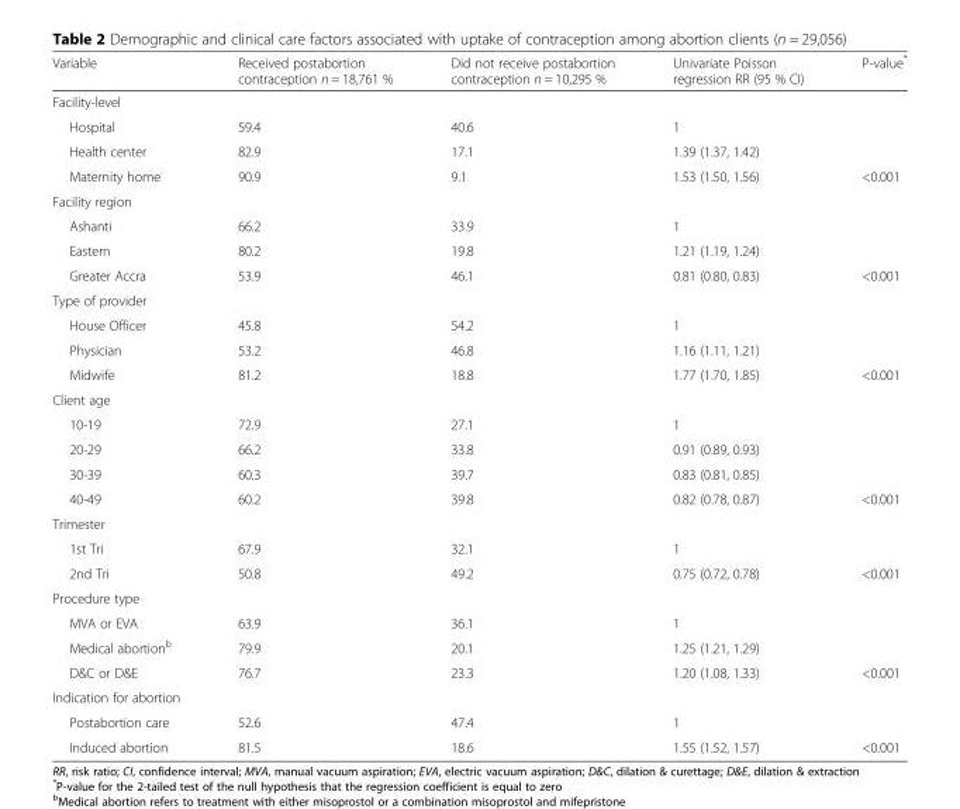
<table><thead><tr><td>Variable</td><td>Received postabortion contraception n = 18,761 %</td><td>Did not receive postabortion contraception n = 10,295 %</td><td>Univariate Poisson regression RR (95 % CI)</td><td>P-value*</td></tr></thead><tbody><tr><td colspan="5">Facility-level</td></tr><tr><td>Hospital</td><td>59.4</td><td>40.6</td><td>1</td><td></td></tr><tr><td>Health center</td><td>82.9</td><td>17.1</td><td>1.39 (1.37, 1.42)</td><td></td></tr><tr><td>Maternity home</td><td>90.9</td><td>9.1</td><td>1.53 (1.50, 1.56)</td><td>&lt;0.001</td></tr><tr><td colspan="5">Facility region</td></tr><tr><td>Ashanti</td><td>66.2</td><td>33.9</td><td>1</td><td></td></tr><tr><td>Eastern</td><td>80.2</td><td>19.8</td><td>1.21 (1.19, 1.24)</td><td></td></tr><tr><td>Greater Accra</td><td>53.9</td><td>46.1</td><td>0.81 (0.80, 0.83)</td><td>&lt;0.001</td></tr><tr><td colspan="5">Type of provider</td></tr><tr><td>House Officer</td><td>45.8</td><td>54.2</td><td>1</td><td></td></tr><tr><td>Physician</td><td>53.2</td><td>46.8</td><td>1.16 (1.11, 1.21)</td><td></td></tr><tr><td>Midwife</td><td>81.2</td><td>18.8</td><td>1.77 (1.70, 1.85)</td><td>&lt;0.001</td></tr><tr><td colspan="5">Client age</td></tr><tr><td>10-19</td><td>72.9</td><td>27.1</td><td>1</td><td></td></tr><tr><td>20-29</td><td>66.2</td><td>33.8</td><td>0.91 (0.89, 0.93)</td><td></td></tr><tr><td>30-39</td><td>60.3</td><td>39.7</td><td>0.83 (0.81, 0.85)</td><td></td></tr><tr><td>40-49</td><td>60.2</td><td>39.8</td><td>0.82 (0.78, 0.87)</td><td>&lt;0.001</td></tr><tr><td colspan="5">Trimester</td></tr><tr><td>1st Tri</td><td>67.9</td><td>32.1</td><td>1</td><td></td></tr><tr><td>2nd Tri</td><td>50.8</td><td>49.2</td><td>0.75 (0.72, 0.78)</td><td>&lt;0.001</td></tr><tr><td colspan="5">Procedure type</td></tr><tr><td>MVA or EVA</td><td>63.9</td><td>36.1</td><td>1</td><td></td></tr><tr><td>Medical abortion<sup>b</sup></td><td>79.9</td><td>20.1</td><td>1.25 (1.21, 1.29)</td><td></td></tr><tr><td>D&amp;C or D&amp;E</td><td>76.7</td><td>23.3</td><td>1.20 (1.08, 1.33)</td><td>&lt;0.001</td></tr><tr><td colspan="5">Indication for abortion</td></tr><tr><td>Postabortion care</td><td>52.6</td><td>47.4</td><td>1</td><td></td></tr><tr><td>Induced abortion</td><td>81.5</td><td>18.6</td><td>1.55 (1.52, 1.57)</td><td>&lt;0.001</td></tr></tbody></table>